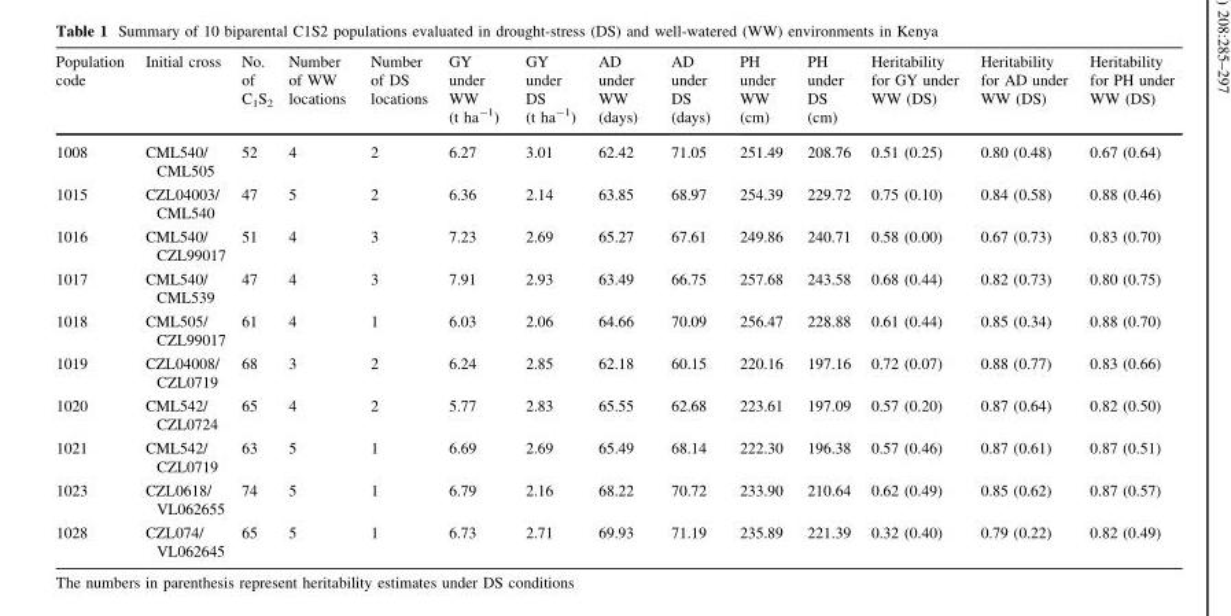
<table><thead><tr><td>Population code</td><td>Initial cross</td><td>No. of C<sub>1</sub>S<sub>2</sub></td><td>Number of WW locations</td><td>Number of DS locations</td><td>GY under WW (t ha<sup>-1</sup>)</td><td>GY under DS (t ha<sup>-1</sup>)</td><td>AD under WW (days)</td><td>AD under DS (days)</td><td>PH under WW (cm)</td><td>PH under DS (cm)</td><td>Heritability for GY under WW (DS)</td><td>Heritability for AD under WW (DS)</td><td>Heritability for PH under WW (DS)</td></tr></thead><tbody><tr><td>1008</td><td>CML540/ CML505</td><td>52</td><td>4</td><td>2</td><td>6.27</td><td>3.01</td><td>62.42</td><td>71.05</td><td>251.49</td><td>208.76</td><td>0.51 (0.25)</td><td>0.80 (0.48)</td><td>0.67 (0.64)</td></tr><tr><td>1015</td><td>CZL04003/ CML540</td><td>47</td><td>5</td><td>2</td><td>6.36</td><td>2.14</td><td>63.85</td><td>68.97</td><td>254.39</td><td>229.72</td><td>0.75 (0.10)</td><td>0.84 (0.58)</td><td>0.88 (0.46)</td></tr><tr><td>1016</td><td>CML540/ CZL99017</td><td>51</td><td>4</td><td>3</td><td>7.23</td><td>2.69</td><td>65.27</td><td>67.61</td><td>249.86</td><td>240.71</td><td>0.58 (0.00)</td><td>0.67 (0.73)</td><td>0.83 (0.70)</td></tr><tr><td>1017</td><td>CML540/ CML539</td><td>47</td><td>4</td><td>3</td><td>7.91</td><td>2.93</td><td>63.49</td><td>66.75</td><td>257.68</td><td>243.58</td><td>0.68 (0.44)</td><td>0.82 (0.73)</td><td>0.80 (0.75)</td></tr><tr><td>1018</td><td>CML505/ CZL99017</td><td>61</td><td>4</td><td>1</td><td>6.03</td><td>2.06</td><td>64.66</td><td>70.09</td><td>256.47</td><td>228.88</td><td>0.61 (0.44)</td><td>0.85 (0.34)</td><td>0.88 (0.70)</td></tr><tr><td>1019</td><td>CZL04008/ CZL0719</td><td>68</td><td>3</td><td>2</td><td>6.24</td><td>2.85</td><td>62.18</td><td>60.15</td><td>220.16</td><td>197.16</td><td>0.72 (0.07)</td><td>0.88 (0.77)</td><td>0.83 (0.66)</td></tr><tr><td>1020</td><td>CML542/ CZL0724</td><td>65</td><td>4</td><td>2</td><td>5.77</td><td>2.83</td><td>65.55</td><td>62.68</td><td>223.61</td><td>197.09</td><td>0.57 (0.20)</td><td>0.87 (0.64)</td><td>0.82 (0.50)</td></tr><tr><td>1021</td><td>CML542/ CZL0719</td><td>63</td><td>5</td><td>1</td><td>6.69</td><td>2.69</td><td>65.49</td><td>68.14</td><td>222.30</td><td>196.38</td><td>0.57 (0.46)</td><td>0.87 (0.61)</td><td>0.87 (0.51)</td></tr><tr><td>1023</td><td>CZL0618/ VL062655</td><td>74</td><td>5</td><td>1</td><td>6.79</td><td>2.16</td><td>68.22</td><td>70.72</td><td>233.90</td><td>210.64</td><td>0.62 (0.49)</td><td>0.85 (0.62)</td><td>0.87 (0.57)</td></tr><tr><td>1028</td><td>CZL074/ VL062645</td><td>65</td><td>5</td><td>1</td><td>6.73</td><td>2.71</td><td>69.93</td><td>71.19</td><td>235.89</td><td>221.39</td><td>0.32 (0.40)</td><td>0.79 (0.22)</td><td>0.82 (0.49)</td></tr></tbody></table>